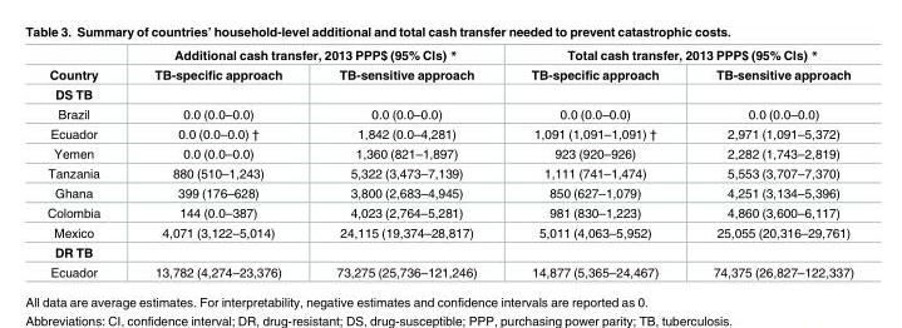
<table><thead><tr><td rowspan="2">Country</td><td colspan="2">Additional cash transfer, 2013 PPP$ (95% CIs) *</td><td colspan="2">Total cash transfer, 2013 PPP$ (95% CIs) *</td></tr><tr><td>TB-specific approach</td><td>TB-sensitive approach</td><td>TB-specific approach</td><td>TB-sensitive approach</td></tr></thead><tbody><tr><td colspan="5">DS TB</td></tr><tr><td>Brazil</td><td>0.0 (0.0–0.0)</td><td>0.0 (0.0–0.0)</td><td>0.0 (0.0–0.0)</td><td>0.0 (0.0–0.0)</td></tr><tr><td>Ecuador</td><td>0.0 (0.0–0.0) †</td><td>1,842 (0.0–4,281)</td><td>1,091 (1,091–1,091) †</td><td>2,971 (1,091–5,372)</td></tr><tr><td>Yemen</td><td>0.0 (0.0–0.0)</td><td>1,360 (821–1,897)</td><td>923 (920–926)</td><td>2,282 (1,743–2,819)</td></tr><tr><td>Tanzania</td><td>880 (510–1,243)</td><td>5,322 (3,473–7,139)</td><td>1,111 (741–1,474)</td><td>5,553 (3,707–7,370)</td></tr><tr><td>Ghana</td><td>399 (176–628)</td><td>3,800 (2,683–4,945)</td><td>850 (627–1,079)</td><td>4,251 (3,134–5,396)</td></tr><tr><td>Colombia</td><td>144 (0.0–387)</td><td>4,023 (2,764–5,281)</td><td>981 (830–1,223)</td><td>4,860 (3,600–6,117)</td></tr><tr><td>Mexico</td><td>4,071 (3,122–5,014)</td><td>24,115 (19,374–28,817)</td><td>5,011 (4,063–5,952)</td><td>25,055 (20,316–29,761)</td></tr><tr><td colspan="5">DR TB</td></tr><tr><td>Ecuador</td><td>13,782 (4,274–23,376)</td><td>73,275 (25,736–121,246)</td><td>14,877 (5,365–24,467)</td><td>74,375 (26,827–122,337)</td></tr></tbody></table>